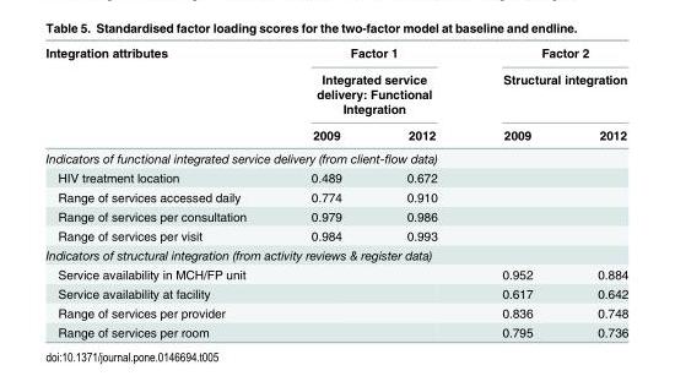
<table><thead><tr><td rowspan="3">Integration attributes</td><td rowspan="2" colspan="2">Factor 1 Integrated service delivery: Functional Integration</td><td rowspan="2" colspan="2">Factor 2 Structural integration</td></tr><tr></tr><tr><td>2009</td><td>2012</td><td>2009</td><td>2012</td></tr></thead><tbody><tr><td colspan="5">Indicators of functional integrated service delivery (from client-flow data)</td></tr><tr><td>HIV treatment location</td><td>0.489</td><td>0.672</td><td></td><td></td></tr><tr><td>Range of services accessed daily</td><td>0.774</td><td>0.910</td><td></td><td></td></tr><tr><td>Range of services per consultation</td><td>0.979</td><td>0.986</td><td></td><td></td></tr><tr><td>Range of services per visit</td><td>0.984</td><td>0.993</td><td></td><td></td></tr><tr><td colspan="5">Indicators of structural integration (from activity reviews &amp; register data)</td></tr><tr><td>Service availability in MCH/FP unit</td><td></td><td></td><td>0.952</td><td>0.884</td></tr><tr><td>Service availability at facility</td><td></td><td></td><td>0.617</td><td>0.642</td></tr><tr><td>Range of services per provider</td><td></td><td></td><td>0.836</td><td>0.748</td></tr><tr><td>Range of services per room</td><td></td><td></td><td>0.795</td><td>0.736</td></tr></tbody></table>